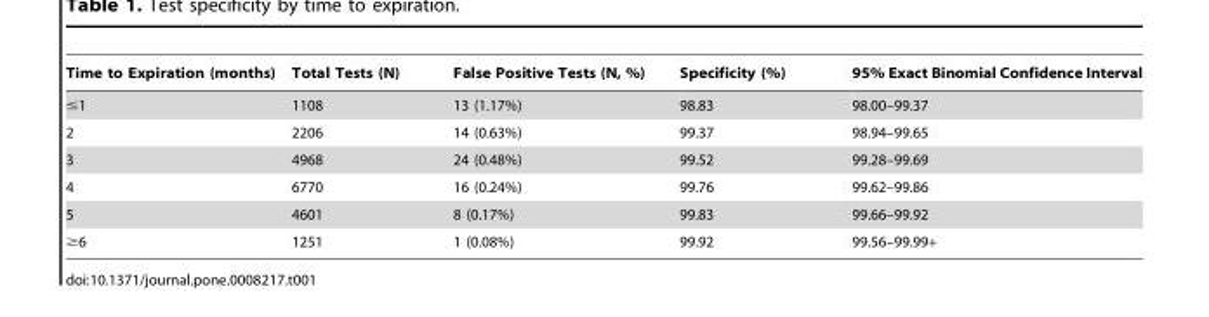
<table><thead><tr><td>Time to Expiration (months)</td><td>Total Tests (N)</td><td>False Positive Tests (N, %)</td><td>Specificity (%)</td><td>95% Exact Binomial Confidence Interval</td></tr></thead><tbody><tr><td>≤1</td><td>1108</td><td>13 (1.17%)</td><td>98.83</td><td>98.00–99.37</td></tr><tr><td>2</td><td>2206</td><td>14 (0.63%)</td><td>99.37</td><td>98.94–99.65</td></tr><tr><td>3</td><td>4968</td><td>24 (0.48%)</td><td>99.52</td><td>99.28–99.69</td></tr><tr><td>4</td><td>6770</td><td>16 (0.24%)</td><td>99.76</td><td>99.62–99.86</td></tr><tr><td>5</td><td>4601</td><td>8 (0.17%)</td><td>99.83</td><td>99.66–99.92</td></tr><tr><td>≥6</td><td>1251</td><td>1 (0.08%)</td><td>99.92</td><td>99.56–99.99+</td></tr></tbody></table>